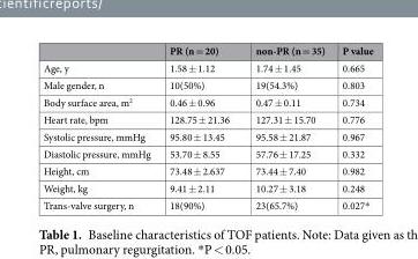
<table><thead><tr><td></td><td>PR (n = 20)</td><td>non-PR (n = 35)</td><td>P value</td></tr></thead><tbody><tr><td>Age, y</td><td>1.58 ± 1.12</td><td>1.74 ± 1.45</td><td>0.665</td></tr><tr><td>Male gender, n</td><td>10(50%)</td><td>19(54.3%)</td><td>0.803</td></tr><tr><td>Body surface area, m<sup>2</sup></td><td>0.46 ± 0.96</td><td>0.47 ± 0.11</td><td>0.734</td></tr><tr><td>Heart rate, bpm</td><td>128.75 ± 21.36</td><td>127.31 ± 15.70</td><td>0.776</td></tr><tr><td>Systolic pressure, mmHg</td><td>95.80 ± 13.45</td><td>95.58 ± 21.87</td><td>0.967</td></tr><tr><td>Diastolic pressure, mmHg</td><td>53.70 ± 8.55</td><td>57.76 ± 17.25</td><td>0.332</td></tr><tr><td>Height, cm</td><td>73.48 ± 2.637</td><td>73.44 ± 7.40</td><td>0.982</td></tr><tr><td>Weight, kg</td><td>9.41 ± 2.11</td><td>10.27 ± 3.18</td><td>0.248</td></tr><tr><td>Trans-valve surgery, n</td><td>18(90%)</td><td>23(65.7%)</td><td>0.027*</td></tr></tbody></table>